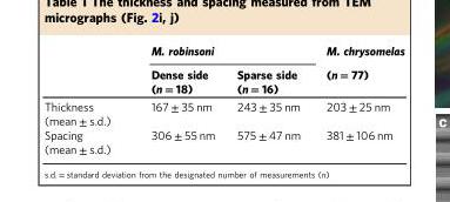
<table><thead><tr><td rowspan="2"></td><td colspan="2">M. robinsoni</td><td rowspan="2">M. chrysomelas (n = 77)</td></tr><tr><td>Dense side (n = 18)</td><td>Sparse side (n = 16)</td></tr></thead><tbody><tr><td>Thickness (mean ± s.d.)</td><td>167 ± 35 nm</td><td>243 ± 35 nm</td><td>203 ± 25 nm</td></tr><tr><td>Spacing (mean ± s.d.)</td><td>306 ± 55 nm</td><td>575 ± 47 nm</td><td>381 ± 106 nm</td></tr></tbody></table>